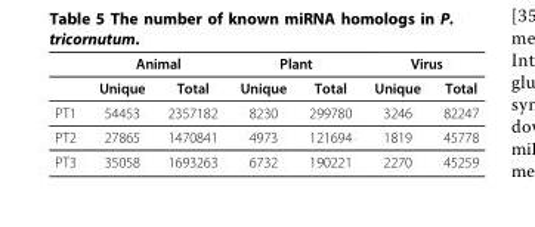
<table><thead><tr><td rowspan="2"></td><td colspan="2">Animal</td><td colspan="2">Plant</td><td colspan="2">Virus</td></tr><tr><td>Unique</td><td>Total</td><td>Unique</td><td>Total</td><td>Unique</td><td>Total</td></tr></thead><tbody><tr><td>PT1</td><td>54453</td><td>2357182</td><td>8230</td><td>299780</td><td>3246</td><td>82247</td></tr><tr><td>PT2</td><td>27865</td><td>1470841</td><td>4973</td><td>121694</td><td>1819</td><td>45778</td></tr><tr><td>PT3</td><td>35058</td><td>1693263</td><td>6732</td><td>190221</td><td>2270</td><td>45259</td></tr></tbody></table>